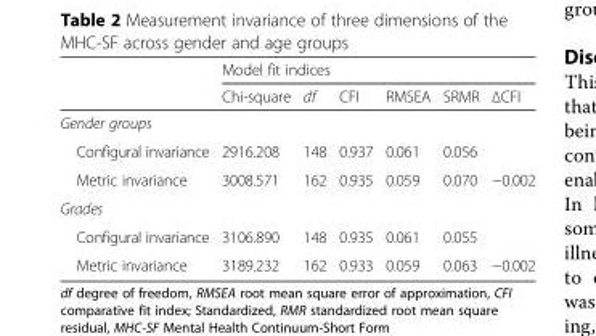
<table><thead><tr><td rowspan="2"></td><td colspan="6">Model fit indices</td></tr><tr><td>Chi-square</td><td>df</td><td>CFI</td><td>RMSEA</td><td>SRMR</td><td>ΔCFI</td></tr></thead><tbody><tr><td colspan="7">Gender groups</td></tr><tr><td>Configural invariance</td><td>2916.208</td><td>148</td><td>0.937</td><td>0.061</td><td>0.056</td><td></td></tr><tr><td>Metric invariance</td><td>3008.571</td><td>162</td><td>0.935</td><td>0.059</td><td>0.070</td><td>−0.002</td></tr><tr><td colspan="7">Grades</td></tr><tr><td>Configural invariance</td><td>3106.890</td><td>148</td><td>0.935</td><td>0.061</td><td>0.055</td><td></td></tr><tr><td>Metric invariance</td><td>3189.232</td><td>162</td><td>0.933</td><td>0.059</td><td>0.063</td><td>−0.002</td></tr></tbody></table>